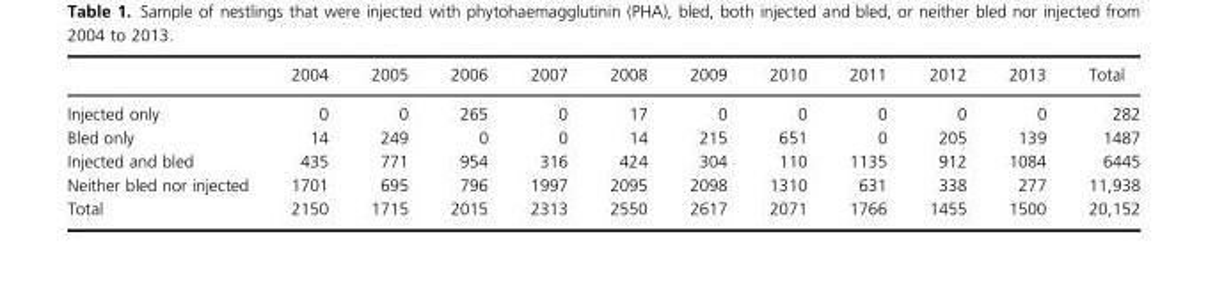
<table><thead><tr><td></td><td>2004</td><td>2005</td><td>2006</td><td>2007</td><td>2008</td><td>2009</td><td>2010</td><td>2011</td><td>2012</td><td>2013</td><td>Total</td></tr></thead><tbody><tr><td>Injected only</td><td>0</td><td>0</td><td>265</td><td>0</td><td>17</td><td>0</td><td>0</td><td>0</td><td>0</td><td>0</td><td>282</td></tr><tr><td>Bled only</td><td>14</td><td>249</td><td>0</td><td>0</td><td>14</td><td>215</td><td>651</td><td>0</td><td>205</td><td>139</td><td>1487</td></tr><tr><td>Injected and bled</td><td>435</td><td>771</td><td>954</td><td>316</td><td>424</td><td>304</td><td>110</td><td>1135</td><td>912</td><td>1084</td><td>6445</td></tr><tr><td>Neither bled nor injected</td><td>1701</td><td>695</td><td>796</td><td>1997</td><td>2095</td><td>2098</td><td>1310</td><td>631</td><td>338</td><td>277</td><td>11,938</td></tr><tr><td>Total</td><td>2150</td><td>1715</td><td>2015</td><td>2313</td><td>2550</td><td>2617</td><td>2071</td><td>1766</td><td>1455</td><td>1500</td><td>20,152</td></tr></tbody></table>